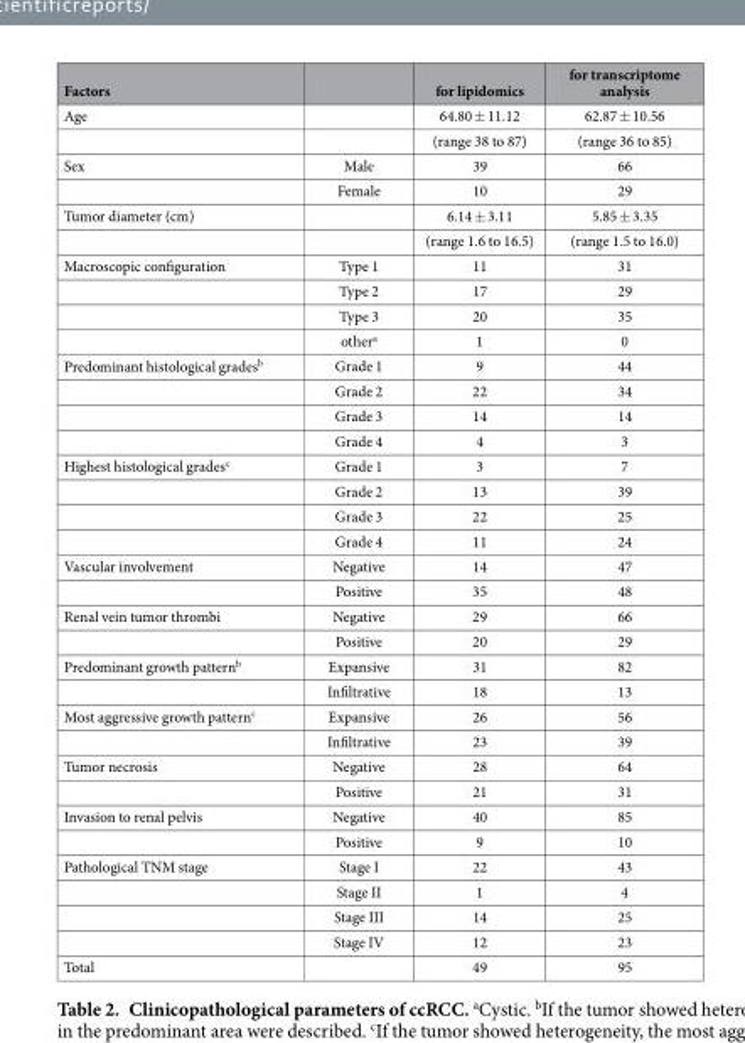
<table><thead><tr><td>Factors</td><td></td><td>for lipidomics</td><td>for transcriptome analysis</td></tr></thead><tbody><tr><td rowspan="2">Age</td><td></td><td>64.80 ± 11.12</td><td>62.87 ± 10.56</td></tr><tr><td></td><td>(range 38 to 87)</td><td>(range 36 to 85)</td></tr><tr><td rowspan="2">Sex</td><td>Male</td><td>39</td><td>66</td></tr><tr><td>Female</td><td>10</td><td>29</td></tr><tr><td rowspan="2">Tumor diameter (cm)</td><td></td><td>6.14 ± 3.11</td><td>5.85 ± 3.35</td></tr><tr><td></td><td>(range 1.6 to 16.5)</td><td>(range 1.5 to 16.0)</td></tr><tr><td rowspan="4">Macroscopic configuration</td><td>Type 1</td><td>11</td><td>31</td></tr><tr><td>Type 2</td><td>17</td><td>29</td></tr><tr><td>Type 3</td><td>20</td><td>35</td></tr><tr><td>other<sup>a</sup></td><td>1</td><td>0</td></tr><tr><td rowspan="4">Predominant histological grades<sup>b</sup></td><td>Grade 1</td><td>9</td><td>44</td></tr><tr><td>Grade 2</td><td>22</td><td>34</td></tr><tr><td>Grade 3</td><td>14</td><td>14</td></tr><tr><td>Grade 4</td><td>4</td><td>3</td></tr><tr><td rowspan="4">Highest histological grades<sup>c</sup></td><td>Grade 1</td><td>3</td><td>7</td></tr><tr><td>Grade 2</td><td>13</td><td>39</td></tr><tr><td>Grade 3</td><td>22</td><td>25</td></tr><tr><td>Grade 4</td><td>11</td><td>24</td></tr><tr><td rowspan="2">Vascular involvement</td><td>Negative</td><td>14</td><td>47</td></tr><tr><td>Positive</td><td>35</td><td>48</td></tr><tr><td rowspan="2">Renal vein tumor thrombi</td><td>Negative</td><td>29</td><td>66</td></tr><tr><td>Positive</td><td>20</td><td>29</td></tr><tr><td rowspan="2">Predominant growth pattern<sup>b</sup></td><td>Expansive</td><td>31</td><td>82</td></tr><tr><td>Infiltrative</td><td>18</td><td>13</td></tr><tr><td rowspan="2">Most aggressive growth pattern<sup>c</sup></td><td>Expansive</td><td>26</td><td>56</td></tr><tr><td>Infiltrative</td><td>23</td><td>39</td></tr><tr><td rowspan="2">Tumor necrosis</td><td>Negative</td><td>28</td><td>64</td></tr><tr><td>Positive</td><td>21</td><td>31</td></tr><tr><td rowspan="2">Invasion to renal pelvis</td><td>Negative</td><td>40</td><td>85</td></tr><tr><td>Positive</td><td>9</td><td>10</td></tr><tr><td rowspan="4">Pathological TNM stage</td><td>Stage I</td><td>22</td><td>43</td></tr><tr><td>Stage II</td><td>1</td><td>4</td></tr><tr><td>Stage III</td><td>14</td><td>25</td></tr><tr><td>Stage IV</td><td>12</td><td>23</td></tr><tr><td>Total</td><td></td><td>49</td><td>95</td></tr></tbody></table>